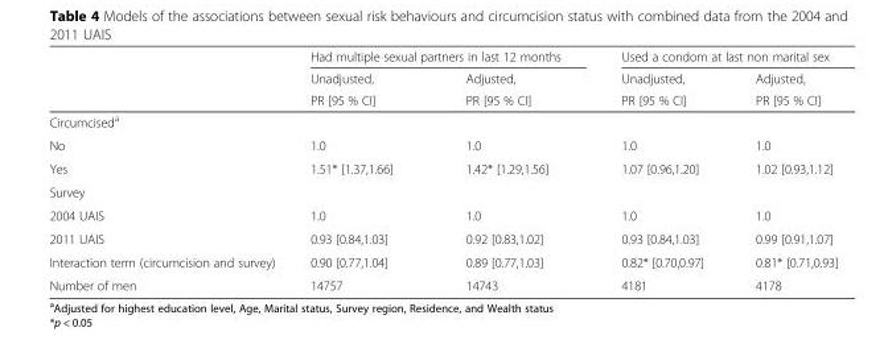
<table><thead><tr><td rowspan="3"></td><td colspan="2">Had multiple sexual partners in last 12 months</td><td colspan="2">Used a condom at last non marital sex</td></tr><tr><td rowspan="2">Unadjusted, PR [95 % CI]</td><td rowspan="2">Adjusted, PR [95 % CI]</td><td rowspan="2">Unadjusted, PR [95 % CI]</td><td rowspan="2">Adjusted, PR [95 % CI]</td></tr><tr></tr></thead><tbody><tr><td colspan="5">Circumcised<sup>a</sup></td></tr><tr><td>No</td><td>1.0</td><td>1.0</td><td>1.0</td><td>1.0</td></tr><tr><td>Yes</td><td>1.51* [1.37,1.66]</td><td>1.42* [1.29,1.56]</td><td>1.07 [0.96,1.20]</td><td>1.02 [0.93,1.12]</td></tr><tr><td colspan="5">Survey</td></tr><tr><td>2004 UAIS</td><td>1.0</td><td>1.0</td><td>1.0</td><td>1.0</td></tr><tr><td>2011 UAIS</td><td>0.93 [0.84,1.03]</td><td>0.92 [0.83,1.02]</td><td>0.93 [0.84,1.03]</td><td>0.99 [0.91,1.07]</td></tr><tr><td>Interaction term (circumcision and survey)</td><td>0.90 [0.77,1.04]</td><td>0.89 [0.77,1.03]</td><td>0.82* [0.70,0.97]</td><td>0.81* [0.71,0.93]</td></tr><tr><td>Number of men</td><td>14757</td><td>14743</td><td>4181</td><td>4178</td></tr></tbody></table>